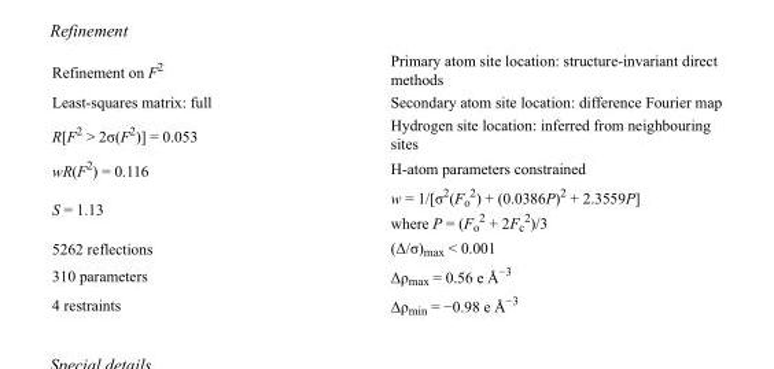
<table><tbody><tr><td>Refinement on F<sup>2</sup></td><td>Primary atom site location: structure-invariant direct methods</td></tr><tr><td>Least-squares matrix: full</td><td>Secondary atom site location: difference Fourier map</td></tr><tr><td>R[F<sup>2</sup> &gt; 2σ(F<sup>2</sup>)] = 0.053</td><td>Hydrogen site location: inferred from neighbouring sites</td></tr><tr><td>wR(F<sup>2</sup>) = 0.116</td><td>H-atom parameters constrained</td></tr><tr><td>S = 1.13</td><td>w = 1/[σ<sup>2</sup>(F<sub>o</sub> <sup>2</sup>) + (0.0386P)<sup>2</sup> + 2.3559P] where P = (F<sub>o</sub> <sup>2</sup> + 2F<sub>c</sub> <sup>2</sup>)/3</td></tr><tr><td>5262 reflections</td><td>(Δ/σ)<sub>max</sub> &lt; 0.001</td></tr><tr><td>310 parameters</td><td>Δρ<sub>max</sub> = 0.56 e Å<sup>−3</sup></td></tr><tr><td>4 restraints</td><td>Δρ<sub>min</sub> = −0.98 e Å<sup>−3</sup></td></tr></tbody></table>